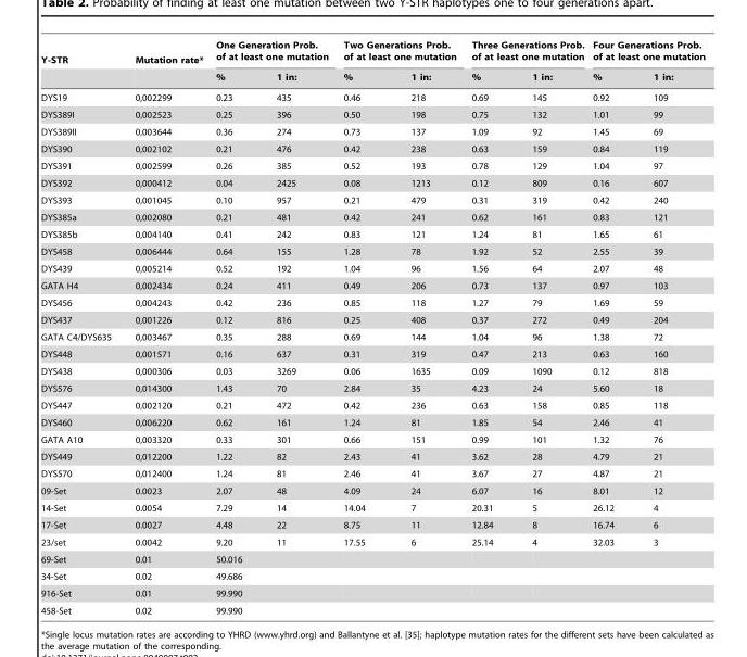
<table><thead><tr><td rowspan="2">Y-STR</td><td rowspan="2">Mutation rate*</td><td colspan="2">One Generation Prob. of at least one mutation</td><td colspan="2">Two Generations Prob. of at least one mutation</td><td colspan="2">Three Generations Prob. of at least one mutation</td><td colspan="2">Four Generations Prob. of at least one mutation</td></tr><tr><td>%</td><td>1 in:</td><td>%</td><td>1 in:</td><td>%</td><td>1 in:</td><td>%</td><td>1 in:</td></tr></thead><tbody><tr><td>DYS19</td><td>0,002299</td><td>0.23</td><td>435</td><td>0.46</td><td>218</td><td>0.69</td><td>145</td><td>0.92</td><td>109</td></tr><tr><td>DYS389I</td><td>0,002523</td><td>0.25</td><td>396</td><td>0.50</td><td>198</td><td>0.75</td><td>132</td><td>1.01</td><td>99</td></tr><tr><td>DYS389II</td><td>0,003644</td><td>0.36</td><td>274</td><td>0.73</td><td>137</td><td>1.09</td><td>92</td><td>1.45</td><td>69</td></tr><tr><td>DYS390</td><td>0,002102</td><td>0.21</td><td>476</td><td>0.42</td><td>238</td><td>0.63</td><td>159</td><td>0.84</td><td>119</td></tr><tr><td>DYS391</td><td>0,002599</td><td>0.26</td><td>385</td><td>0.52</td><td>193</td><td>0.78</td><td>129</td><td>1.04</td><td>97</td></tr><tr><td>DYS392</td><td>0,000412</td><td>0.04</td><td>2425</td><td>0.08</td><td>1213</td><td>0.12</td><td>809</td><td>0.16</td><td>607</td></tr><tr><td>DYS393</td><td>0,001045</td><td>0.10</td><td>957</td><td>0.21</td><td>479</td><td>0.31</td><td>319</td><td>0.42</td><td>240</td></tr><tr><td>DYS385a</td><td>0,002080</td><td>0.21</td><td>481</td><td>0.42</td><td>241</td><td>0.62</td><td>161</td><td>0.83</td><td>121</td></tr><tr><td>DYS385b</td><td>0,004140</td><td>0.41</td><td>242</td><td>0.83</td><td>121</td><td>1.24</td><td>81</td><td>1.65</td><td>61</td></tr><tr><td>DYS458</td><td>0,006444</td><td>0.64</td><td>155</td><td>1.28</td><td>78</td><td>1.92</td><td>52</td><td>2.55</td><td>39</td></tr><tr><td>DYS439</td><td>0,005214</td><td>0.52</td><td>192</td><td>1.04</td><td>96</td><td>1.56</td><td>64</td><td>2.07</td><td>48</td></tr><tr><td>GATA H4</td><td>0,002434</td><td>0.24</td><td>411</td><td>0.49</td><td>206</td><td>0.73</td><td>137</td><td>0.97</td><td>103</td></tr><tr><td>DYS456</td><td>0,004243</td><td>0.42</td><td>236</td><td>0.85</td><td>118</td><td>1.27</td><td>79</td><td>1.69</td><td>59</td></tr><tr><td>DYS437</td><td>0,001226</td><td>0.12</td><td>816</td><td>0.25</td><td>408</td><td>0.37</td><td>272</td><td>0.49</td><td>204</td></tr><tr><td>GATA C4/DYS635</td><td>0,003467</td><td>0.35</td><td>288</td><td>0.69</td><td>144</td><td>1.04</td><td>96</td><td>1.38</td><td>72</td></tr><tr><td>DYS448</td><td>0,001571</td><td>0.16</td><td>637</td><td>0.31</td><td>319</td><td>0.47</td><td>213</td><td>0.63</td><td>160</td></tr><tr><td>DYS438</td><td>0,000306</td><td>0.03</td><td>3269</td><td>0.06</td><td>1635</td><td>0.09</td><td>1090</td><td>0.12</td><td>818</td></tr><tr><td>DYS576</td><td>0,014300</td><td>1.43</td><td>70</td><td>2.84</td><td>35</td><td>4.23</td><td>24</td><td>5.60</td><td>18</td></tr><tr><td>DYS447</td><td>0,002120</td><td>0.21</td><td>472</td><td>0.42</td><td>236</td><td>0.63</td><td>158</td><td>0.85</td><td>118</td></tr><tr><td>DYS460</td><td>0,006220</td><td>0.62</td><td>161</td><td>1.24</td><td>81</td><td>1.85</td><td>54</td><td>2.46</td><td>41</td></tr><tr><td>GATA A10</td><td>0,003320</td><td>0.33</td><td>301</td><td>0.66</td><td>151</td><td>0.99</td><td>101</td><td>1.32</td><td>76</td></tr><tr><td>DYS449</td><td>0,012200</td><td>1.22</td><td>82</td><td>2.43</td><td>41</td><td>3.62</td><td>28</td><td>4.79</td><td>21</td></tr><tr><td>DYS570</td><td>0,012400</td><td>1.24</td><td>81</td><td>2.46</td><td>41</td><td>3.67</td><td>27</td><td>4.87</td><td>21</td></tr><tr><td>09-Set</td><td>0.0023</td><td>2.07</td><td>48</td><td>4.09</td><td>24</td><td>6.07</td><td>16</td><td>8.01</td><td>12</td></tr><tr><td>14-Set</td><td>0.0054</td><td>7.29</td><td>14</td><td>14.04</td><td>7</td><td>20.31</td><td>5</td><td>26.12</td><td>4</td></tr><tr><td>17-Set</td><td>0.0027</td><td>4.48</td><td>22</td><td>8.75</td><td>11</td><td>12.84</td><td>8</td><td>16.74</td><td>6</td></tr><tr><td>23/set</td><td>0.0042</td><td>9.20</td><td>11</td><td>17.55</td><td>6</td><td>25.14</td><td>4</td><td>32.03</td><td>3</td></tr><tr><td>69-Set</td><td>0.01</td><td>50.016</td><td></td><td></td><td></td><td></td><td></td><td></td><td></td></tr><tr><td>34-Set</td><td>0.02</td><td>49.686</td><td></td><td></td><td></td><td></td><td></td><td></td><td></td></tr><tr><td>916-Set</td><td>0.01</td><td>99.990</td><td></td><td></td><td></td><td></td><td></td><td></td><td></td></tr><tr><td>458-Set</td><td>0.02</td><td>99.990</td><td></td><td></td><td></td><td></td><td></td><td></td><td></td></tr></tbody></table>